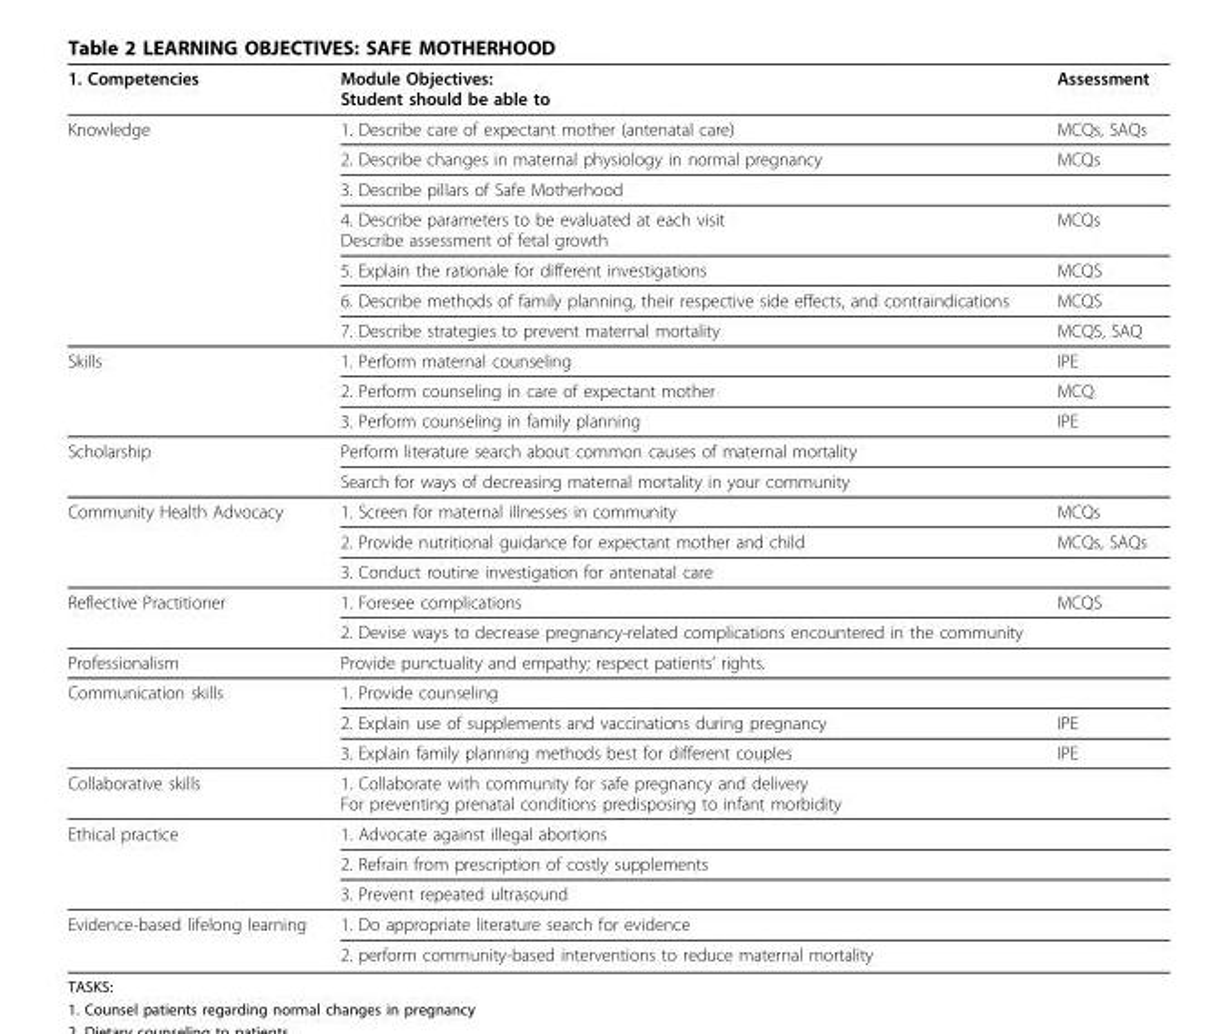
<table><thead><tr><td>1. Competencies</td><td>Module Objectives: Student should be able to</td><td>Assessment</td></tr></thead><tbody><tr><td rowspan="7">Knowledge</td><td>1. Describe care of expectant mother (antenatal care)</td><td>MCQs, SAQs</td></tr><tr><td>2. Describe changes in maternal physiology in normal pregnancy</td><td>MCQs</td></tr><tr><td>3. Describe pillars of Safe Motherhood</td><td></td></tr><tr><td>4. Describe parameters to be evaluated at each visit Describe assessment of fetal growth</td><td>MCQs</td></tr><tr><td>5. Explain the rationale for different investigations</td><td>MCQS</td></tr><tr><td>6. Describe methods of family planning, their respective side effects, and contraindications</td><td>MCQS</td></tr><tr><td>7. Describe strategies to prevent maternal mortality</td><td>MCQS, SAQ</td></tr><tr><td rowspan="3">Skills</td><td>1. Perform maternal counseling</td><td>IPE</td></tr><tr><td>2. Perform counseling in care of expectant mother</td><td>MCQ</td></tr><tr><td>3. Perform counseling in family planning</td><td>IPE</td></tr><tr><td rowspan="2">Scholarship</td><td>Perform literature search about common causes of maternal mortality</td><td></td></tr><tr><td>Search for ways of decreasing maternal mortality in your community</td><td></td></tr><tr><td rowspan="3">Community Health Advocacy</td><td>1. Screen for maternal illnesses in community</td><td>MCQs</td></tr><tr><td>2. Provide nutritional guidance for expectant mother and child</td><td>MCQs, SAQs</td></tr><tr><td>3. Conduct routine investigation for antenatal care</td><td></td></tr><tr><td rowspan="2">Reflective Practitioner</td><td>1. Foresee complications</td><td>MCQS</td></tr><tr><td>2. Devise ways to decrease pregnancy-related complications encountered in the community</td><td></td></tr><tr><td>Professionalism</td><td>Provide punctuality and empathy; respect patients’ rights.</td><td></td></tr><tr><td rowspan="3">Communication skills</td><td>1. Provide counseling</td><td></td></tr><tr><td>2. Explain use of supplements and vaccinations during pregnancy</td><td>IPE</td></tr><tr><td>3. Explain family planning methods best for different couples</td><td>IPE</td></tr><tr><td>Collaborative skills</td><td>1. Collaborate with community for safe pregnancy and delivery For preventing prenatal conditions predisposing to infant morbidity</td><td></td></tr><tr><td rowspan="3">Ethical practice</td><td>1. Advocate against illegal abortions</td><td></td></tr><tr><td>2. Refrain from prescription of costly supplements</td><td></td></tr><tr><td>3. Prevent repeated ultrasound</td><td></td></tr><tr><td rowspan="2">Evidence-based lifelong learning</td><td>1. Do appropriate literature search for evidence</td><td></td></tr><tr><td>2. perform community-based interventions to reduce maternal mortality</td><td></td></tr></tbody></table>